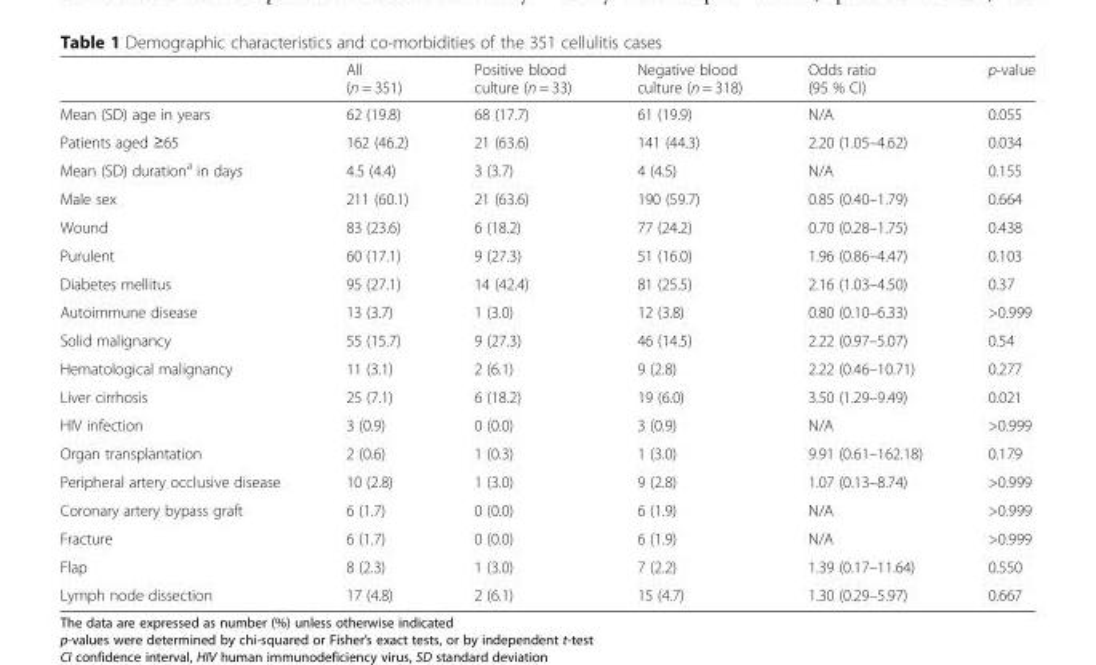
<table><thead><tr><td></td><td>All (n = 351)</td><td>Positive blood culture (n = 33)</td><td>Negative blood culture (n = 318)</td><td>Odds ratio (95 % CI)</td><td>p-value</td></tr></thead><tbody><tr><td>Mean (SD) age in years</td><td>62 (19.8)</td><td>68 (17.7)</td><td>61 (19.9)</td><td>N/A</td><td>0.055</td></tr><tr><td>Patients aged ≥65</td><td>162 (46.2)</td><td>21 (63.6)</td><td>141 (44.3)</td><td>2.20 (1.05–4.62)</td><td>0.034</td></tr><tr><td>Mean (SD) duration<sup>a</sup> in days</td><td>4.5 (4.4)</td><td>3 (3.7)</td><td>4 (4.5)</td><td>N/A</td><td>0.155</td></tr><tr><td>Male sex</td><td>211 (60.1)</td><td>21 (63.6)</td><td>190 (59.7)</td><td>0.85 (0.40–1.79)</td><td>0.664</td></tr><tr><td>Wound</td><td>83 (23.6)</td><td>6 (18.2)</td><td>77 (24.2)</td><td>0.70 (0.28–1.75)</td><td>0.438</td></tr><tr><td>Purulent</td><td>60 (17.1)</td><td>9 (27.3)</td><td>51 (16.0)</td><td>1.96 (0.86–4.47)</td><td>0.103</td></tr><tr><td>Diabetes mellitus</td><td>95 (27.1)</td><td>14 (42.4)</td><td>81 (25.5)</td><td>2.16 (1.03–4.50)</td><td>0.37</td></tr><tr><td>Autoimmune disease</td><td>13 (3.7)</td><td>1 (3.0)</td><td>12 (3.8)</td><td>0.80 (0.10–6.33)</td><td>&gt;0.999</td></tr><tr><td>Solid malignancy</td><td>55 (15.7)</td><td>9 (27.3)</td><td>46 (14.5)</td><td>2.22 (0.97–5.07)</td><td>0.54</td></tr><tr><td>Hematological malignancy</td><td>11 (3.1)</td><td>2 (6.1)</td><td>9 (2.8)</td><td>2.22 (0.46–10.71)</td><td>0.277</td></tr><tr><td>Liver cirrhosis</td><td>25 (7.1)</td><td>6 (18.2)</td><td>19 (6.0)</td><td>3.50 (1.29–9.49)</td><td>0.021</td></tr><tr><td>HIV infection</td><td>3 (0.9)</td><td>0 (0.0)</td><td>3 (0.9)</td><td>N/A</td><td>&gt;0.999</td></tr><tr><td>Organ transplantation</td><td>2 (0.6)</td><td>1 (0.3)</td><td>1 (3.0)</td><td>9.91 (0.61–162.18)</td><td>0.179</td></tr><tr><td>Peripheral artery occlusive disease</td><td>10 (2.8)</td><td>1 (3.0)</td><td>9 (2.8)</td><td>1.07 (0.13–8.74)</td><td>&gt;0.999</td></tr><tr><td>Coronary artery bypass graft</td><td>6 (1.7)</td><td>0 (0.0)</td><td>6 (1.9)</td><td>N/A</td><td>&gt;0.999</td></tr><tr><td>Fracture</td><td>6 (1.7)</td><td>0 (0.0)</td><td>6 (1.9)</td><td>N/A</td><td>&gt;0.999</td></tr><tr><td>Flap</td><td>8 (2.3)</td><td>1 (3.0)</td><td>7 (2.2)</td><td>1.39 (0.17–11.64)</td><td>0.550</td></tr><tr><td>Lymph node dissection</td><td>17 (4.8)</td><td>2 (6.1)</td><td>15 (4.7)</td><td>1.30 (0.29–5.97)</td><td>0.667</td></tr></tbody></table>